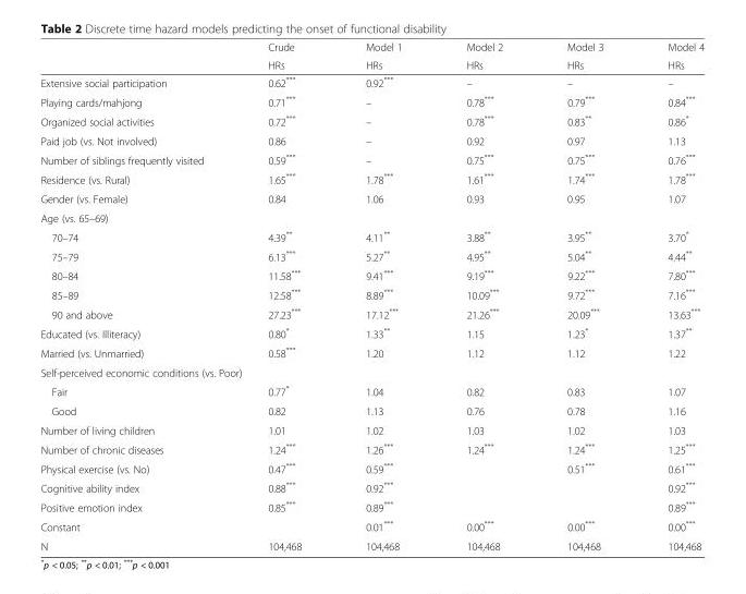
<table><thead><tr><td rowspan="2"></td><td rowspan="2">Crude HRs</td><td rowspan="2">Model 1 HRs</td><td rowspan="2">Model 2 HRs</td><td rowspan="2">Model 3 HRs</td><td rowspan="2">Model 4 HRs</td></tr><tr></tr></thead><tbody><tr><td>Extensive social participation</td><td>0.62***</td><td>0.92***</td><td>–</td><td>–</td><td>–</td></tr><tr><td>Playing cards/mahjong</td><td>0.71***</td><td>–</td><td>0.78***</td><td>0.79***</td><td>0.84***</td></tr><tr><td>Organized social activities</td><td>0.72***</td><td>–</td><td>0.78***</td><td>0.83**</td><td>0.86*</td></tr><tr><td>Paid job (vs. Not involved)</td><td>0.86</td><td>–</td><td>0.92</td><td>0.97</td><td>1.13</td></tr><tr><td>Number of siblings frequently visited</td><td>0.59***</td><td>–</td><td>0.75***</td><td>0.75***</td><td>0.76***</td></tr><tr><td>Residence (vs. Rural)</td><td>1.65***</td><td>1.78***</td><td>1.61***</td><td>1.74***</td><td>1.78***</td></tr><tr><td>Gender (vs. Female)</td><td>0.84</td><td>1.06</td><td>0.93</td><td>0.95</td><td>1.07</td></tr><tr><td colspan="6">Age (vs. 65–69)</td></tr><tr><td>70–74</td><td>4.39**</td><td>4.11**</td><td>3.88**</td><td>3.95**</td><td>3.70*</td></tr><tr><td>75–79</td><td>6.13***</td><td>5.27**</td><td>4.95**</td><td>5.04**</td><td>4.44**</td></tr><tr><td>80–84</td><td>11.58***</td><td>9.41***</td><td>9.19***</td><td>9.22***</td><td>7.80***</td></tr><tr><td>85–89</td><td>12.58***</td><td>8.89***</td><td>10.09***</td><td>9.72***</td><td>7.16***</td></tr><tr><td>90 and above</td><td>27.23***</td><td>17.12***</td><td>21.26***</td><td>20.09***</td><td>13.63***</td></tr><tr><td>Educated (vs. Illiteracy)</td><td>0.80*</td><td>1.33**</td><td>1.15</td><td>1.23*</td><td>1.37**</td></tr><tr><td>Married (vs. Unmarried)</td><td>0.58***</td><td>1.20</td><td>1.12</td><td>1.12</td><td>1.22</td></tr><tr><td colspan="6">Self-perceived economic conditions (vs. Poor)</td></tr><tr><td>Fair</td><td>0.77*</td><td>1.04</td><td>0.82</td><td>0.83</td><td>1.07</td></tr><tr><td>Good</td><td>0.82</td><td>1.13</td><td>0.76</td><td>0.78</td><td>1.16</td></tr><tr><td>Number of living children</td><td>1.01</td><td>1.02</td><td>1.03</td><td>1.02</td><td>1.03</td></tr><tr><td>Number of chronic diseases</td><td>1.24***</td><td>1.26***</td><td>1.24***</td><td>1.24***</td><td>1.25***</td></tr><tr><td>Physical exercise (vs. No)</td><td>0.47***</td><td>0.59***</td><td></td><td>0.51***</td><td>0.61***</td></tr><tr><td>Cognitive ability index</td><td>0.88***</td><td>0.92***</td><td></td><td></td><td>0.92***</td></tr><tr><td>Positive emotion index</td><td>0.85***</td><td>0.89***</td><td></td><td></td><td>0.89***</td></tr><tr><td>Constant</td><td></td><td>0.01***</td><td>0.00***</td><td>0.00***</td><td>0.00***</td></tr><tr><td>N</td><td>104,468</td><td>104,468</td><td>104,468</td><td>104,468</td><td>104,468</td></tr></tbody></table>